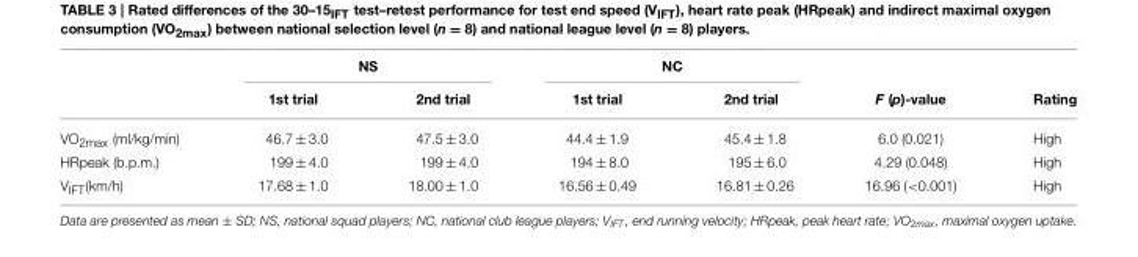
<table><thead><tr><td rowspan="2"></td><td colspan="2">NS</td><td colspan="2">NC</td><td rowspan="2">F (p)-value</td><td rowspan="2">Rating</td></tr><tr><td>1st trial</td><td>2nd trial</td><td>1st trial</td><td>2nd trial</td></tr></thead><tbody><tr><td>VO<sub>2max</sub> (ml/kg/min)</td><td>46.7 ± 3.0</td><td>47.5 ± 3.0</td><td>44.4 ± 1.9</td><td>45.4 ± 1.8</td><td>6.0 (0.021)</td><td>High</td></tr><tr><td>HRpeak (b.p.m.)</td><td>199 ± 4.0</td><td>199 ± 4.0</td><td>194 ± 8.0</td><td>195 ± 6.0</td><td>4.29 (0.048)</td><td>High</td></tr><tr><td>V<sub>IFT</sub>(km/h)</td><td>17.68 ± 1.0</td><td>18.00 ± 1.0</td><td>16.56 ± 0.49</td><td>16.81 ± 0.26</td><td>16.96 (&lt;0.001)</td><td>High</td></tr></tbody></table>